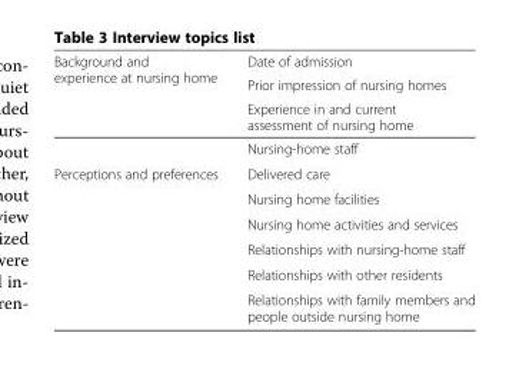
<table><thead><tr><td rowspan="3">Background and experience at nursing home</td><td rowspan="3">Date of admission Prior impression of nursing homes Experience in and current assessment of nursing home</td></tr><tr></tr><tr></tr></thead><tbody><tr><td></td><td>Nursing-home staff</td></tr><tr><td rowspan="6">Perceptions and preferences</td><td>Delivered care</td></tr><tr><td>Nursing home facilities</td></tr><tr><td>Nursing home activities and services</td></tr><tr><td>Relationships with nursing-home staff</td></tr><tr><td>Relationships with other residents</td></tr><tr><td>Relationships with family members and people outside nursing home</td></tr></tbody></table>